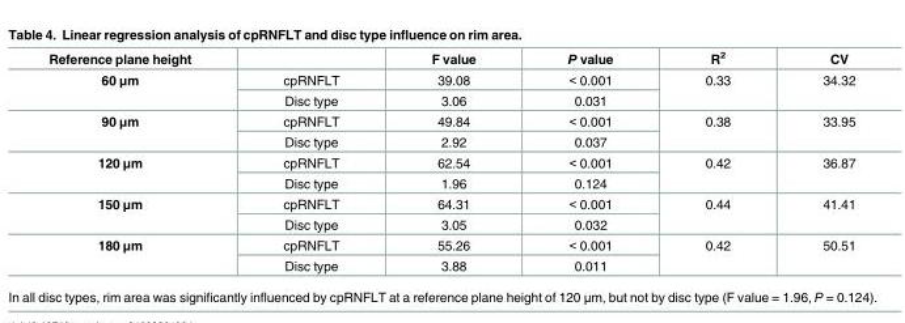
<table><thead><tr><td>Reference plane height</td><td></td><td>F value</td><td>P value</td><td>R<sup>2</sup></td><td>CV</td></tr></thead><tbody><tr><td rowspan="2">60 μm</td><td>cpRNFLT</td><td>39.08</td><td>&lt; 0.001</td><td rowspan="2">0.33</td><td rowspan="2">34.32</td></tr><tr><td>Disc type</td><td>3.06</td><td>0.031</td></tr><tr><td rowspan="2">90 μm</td><td>cpRNFLT</td><td>49.84</td><td>&lt; 0.001</td><td rowspan="2">0.38</td><td rowspan="2">33.95</td></tr><tr><td>Disc type</td><td>2.92</td><td>0.037</td></tr><tr><td rowspan="2">120 μm</td><td>cpRNFLT</td><td>62.54</td><td>&lt; 0.001</td><td rowspan="2">0.42</td><td rowspan="2">36.87</td></tr><tr><td>Disc type</td><td>1.96</td><td>0.124</td></tr><tr><td rowspan="2">150 μm</td><td>cpRNFLT</td><td>64.31</td><td>&lt; 0.001</td><td rowspan="2">0.44</td><td rowspan="2">41.41</td></tr><tr><td>Disc type</td><td>3.05</td><td>0.032</td></tr><tr><td rowspan="2">180 μm</td><td>cpRNFLT</td><td>55.26</td><td>&lt; 0.001</td><td rowspan="2">0.42</td><td rowspan="2">50.51</td></tr><tr><td>Disc type</td><td>3.88</td><td>0.011</td></tr></tbody></table>